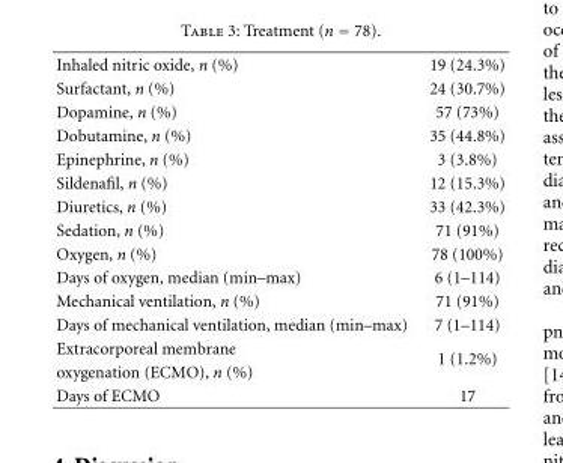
<table><tbody><tr><td>Inhaled nitric oxide, n (%)</td><td>19 (24.3%)</td></tr><tr><td>Surfactant, n (%)</td><td>24 (30.7%)</td></tr><tr><td>Dopamine, n (%)</td><td>57 (73%)</td></tr><tr><td>Dobutamine, n (%)</td><td>35 (44.8%)</td></tr><tr><td>Epinephrine, n (%)</td><td>3 (3.8%)</td></tr><tr><td>Sildenafil, n (%)</td><td>12 (15.3%)</td></tr><tr><td>Diuretics, n (%)</td><td>33 (42.3%)</td></tr><tr><td>Sedation, n (%)</td><td>71 (91%)</td></tr><tr><td>Oxygen, n (%)</td><td>78 (100%)</td></tr><tr><td>Days of oxygen, median (min–max)</td><td>6 (1–114)</td></tr><tr><td>Mechanical ventilation, n (%)</td><td>71 (91%)</td></tr><tr><td>Days of mechanical ventilation, median (min–max)</td><td>7 (1–114)</td></tr><tr><td>Extracorporeal membrane</td><td rowspan="2">1 (1.2%)</td></tr><tr><td>oxygenation (ECMO), n (%)</td></tr><tr><td>Days of ECMO</td><td>17</td></tr></tbody></table>